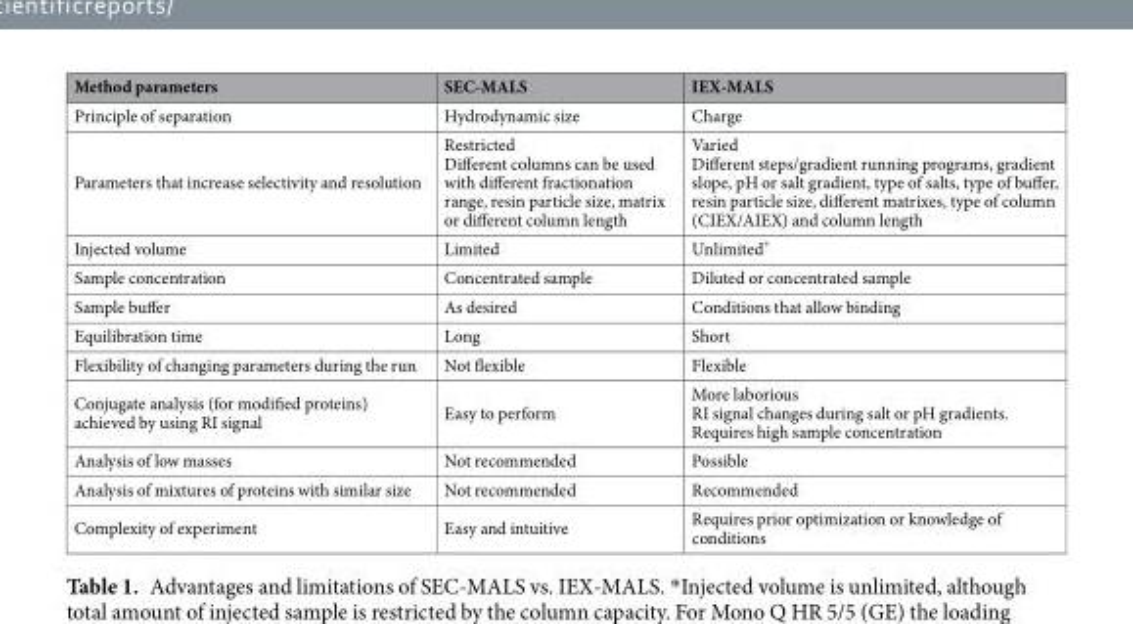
<table><thead><tr><td>Method parameters</td><td>SEC-MALS</td><td>IEX-MALS</td></tr></thead><tbody><tr><td>Principle of separation</td><td>Hydrodynamic size</td><td>Charge</td></tr><tr><td>Parameters that increase selectivity and resolution</td><td>Restricted Different columns can be used with different fractionation range, resin particle size, matrix or different column length</td><td>Varied Different steps/gradient running programs, gradient slope, pH or salt gradient, type of salts, type of buffer, resin particle size, different matrixes, type of column (CIEX/AIEX) and column length</td></tr><tr><td>Injected volume</td><td>Limited</td><td>Unlimited*</td></tr><tr><td>Sample concentration</td><td>Concentrated sample</td><td>Diluted or concentrated sample</td></tr><tr><td>Sample buffer</td><td>As desired</td><td>Conditions that allow binding</td></tr><tr><td>Equilibration time</td><td>Long</td><td>Short</td></tr><tr><td>Flexibility of changing parameters during the run</td><td>Not flexible</td><td>Flexible</td></tr><tr><td>Conjugate analysis (for modified proteins) achieved by using RI signal</td><td>Easy to perform</td><td>More laborious RI signal changes during salt or pH gradients. Requires high sample concentration</td></tr><tr><td>Analysis of low masses</td><td>Not recommended</td><td>Possible</td></tr><tr><td>Analysis of mixtures of proteins with similar size</td><td>Not recommended</td><td>Recommended</td></tr><tr><td>Complexity of experiment</td><td>Easy and intuitive</td><td>Requires prior optimization or knowledge of conditions</td></tr></tbody></table>